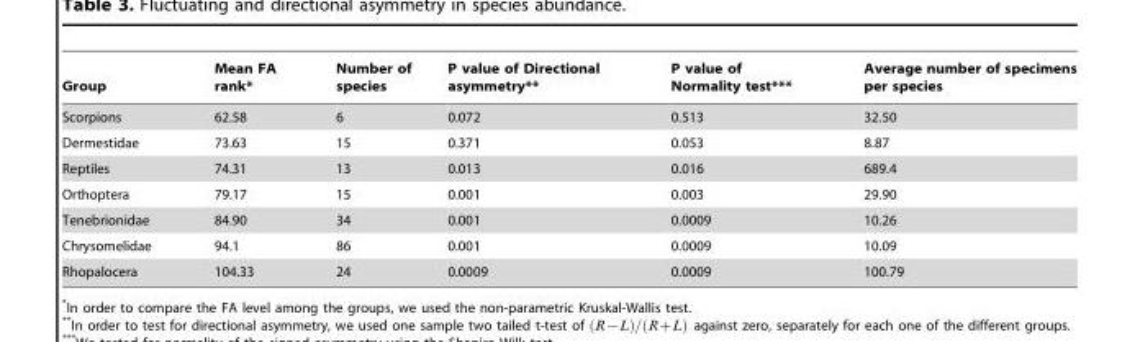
<table><thead><tr><td>Group</td><td>Mean FA rank*</td><td>Number of species</td><td>P value of Directional asymmetry**</td><td>P value of Normality test***</td><td>Average number of specimens per species</td></tr></thead><tbody><tr><td>Scorpions</td><td>62.58</td><td>6</td><td>0.072</td><td>0.513</td><td>32.50</td></tr><tr><td>Dermestidae</td><td>73.63</td><td>15</td><td>0.371</td><td>0.053</td><td>8.87</td></tr><tr><td>Reptiles</td><td>74.31</td><td>13</td><td>0.013</td><td>0.016</td><td>689.4</td></tr><tr><td>Orthoptera</td><td>79.17</td><td>15</td><td>0.001</td><td>0.003</td><td>29.90</td></tr><tr><td>Tenebrionidae</td><td>84.90</td><td>34</td><td>0.001</td><td>0.0009</td><td>10.26</td></tr><tr><td>Chrysomelidae</td><td>94.1</td><td>86</td><td>0.001</td><td>0.0009</td><td>10.09</td></tr><tr><td>Rhopalocera</td><td>104.33</td><td>24</td><td>0.0009</td><td>0.0009</td><td>100.79</td></tr></tbody></table>